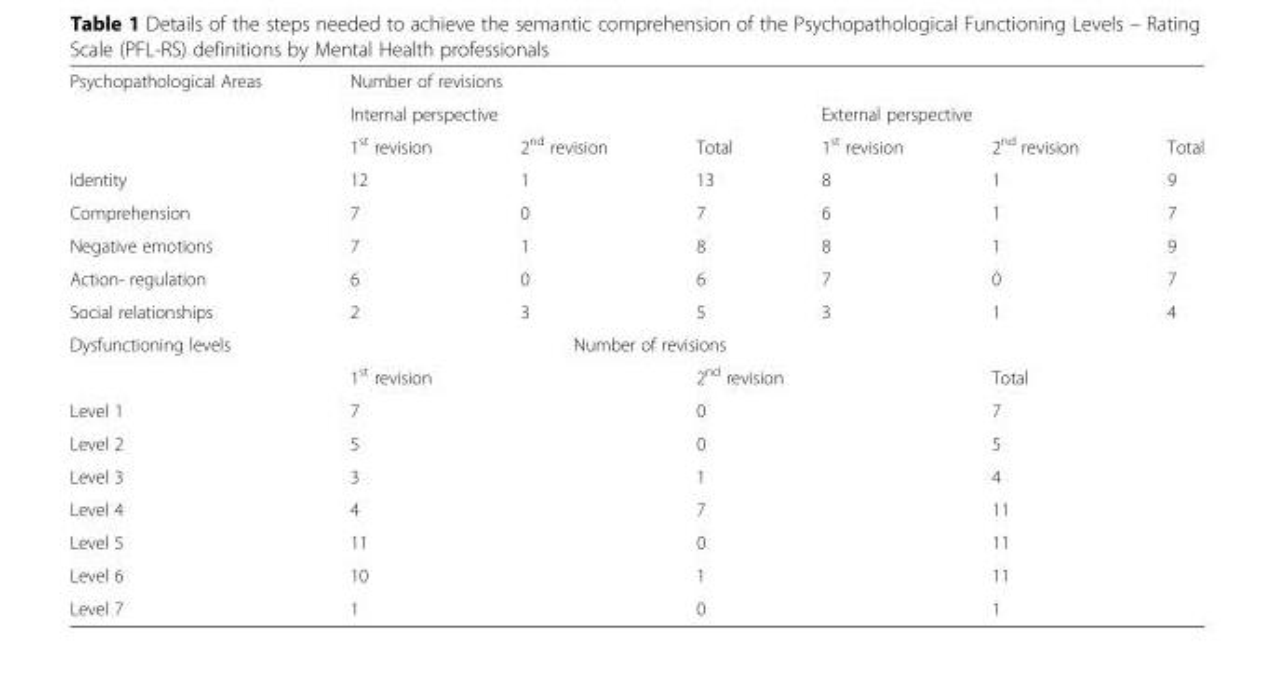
<table><tbody><tr><td rowspan="3">Psychopathological Areas</td><td colspan="6">Number of revisions</td></tr><tr><td colspan="3">Internal perspective</td><td colspan="3">External perspective</td></tr><tr><td>1<sup>st</sup> revision</td><td>2<sup>nd</sup> revision</td><td>Total</td><td>1<sup>st</sup> revision</td><td>2<sup>nd</sup> revision</td><td>Total</td></tr><tr><td>Identity</td><td>12</td><td>1</td><td>13</td><td>8</td><td>1</td><td>9</td></tr><tr><td>Comprehension</td><td>7</td><td>0</td><td>7</td><td>6</td><td>1</td><td>7</td></tr><tr><td>Negative emotions</td><td>7</td><td>1</td><td>8</td><td>8</td><td>1</td><td>9</td></tr><tr><td>Action- regulation</td><td>6</td><td>0</td><td>6</td><td>7</td><td>0</td><td>7</td></tr><tr><td>Social relationships</td><td>2</td><td>3</td><td>5</td><td>3</td><td>1</td><td>4</td></tr><tr><td rowspan="2">Dysfunctioning levels</td><td colspan="6">Number of revisions</td></tr><tr><td colspan="2">1<sup>st</sup> revision</td><td colspan="2">2<sup>nd</sup> revision</td><td colspan="2">Total</td></tr><tr><td>Level 1</td><td colspan="2">7</td><td colspan="2">0</td><td colspan="2">7</td></tr><tr><td>Level 2</td><td colspan="2">5</td><td colspan="2">0</td><td colspan="2">5</td></tr><tr><td>Level 3</td><td colspan="2">3</td><td colspan="2">1</td><td colspan="2">4</td></tr><tr><td>Level 4</td><td colspan="2">4</td><td colspan="2">7</td><td colspan="2">11</td></tr><tr><td>Level 5</td><td colspan="2">11</td><td colspan="2">0</td><td colspan="2">11</td></tr><tr><td>Level 6</td><td colspan="2">10</td><td colspan="2">1</td><td colspan="2">11</td></tr><tr><td>Level 7</td><td colspan="2">1</td><td colspan="2">0</td><td colspan="2">1</td></tr></tbody></table>